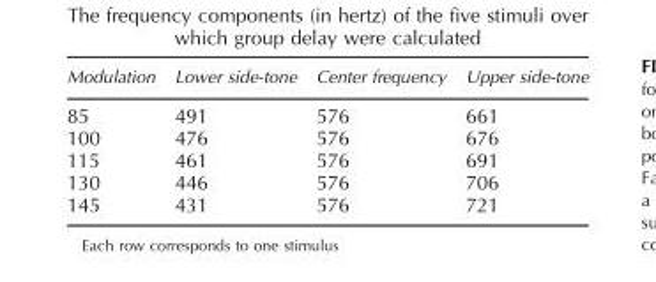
<table><thead><tr><td>Modulation</td><td>Lower side-tone</td><td>Center frequency</td><td>Upper side-tone</td></tr></thead><tbody><tr><td>85</td><td>491</td><td>576</td><td>661</td></tr><tr><td>100</td><td>476</td><td>576</td><td>676</td></tr><tr><td>115</td><td>461</td><td>576</td><td>691</td></tr><tr><td>130</td><td>446</td><td>576</td><td>706</td></tr><tr><td>145</td><td>431</td><td>576</td><td>721</td></tr></tbody></table>